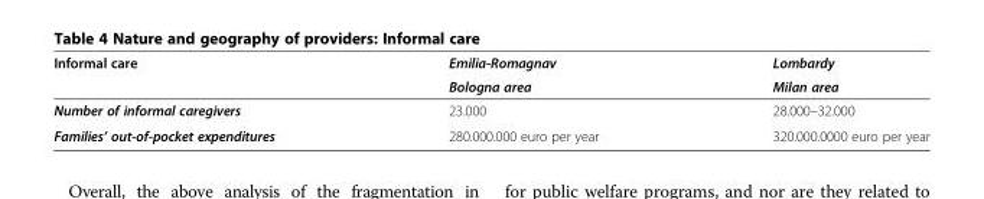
<table><thead><tr><td rowspan="2">Informal care</td><td rowspan="2">Emilia-Romagnav Bologna area</td><td rowspan="2">Lombardy Milan area</td></tr><tr></tr></thead><tbody><tr><td>Number of informal caregivers</td><td>23.000</td><td>28.000–32.000</td></tr><tr><td>Families’ out-of-pocket expenditures</td><td>280.000.000 euro per year</td><td>320.000.0000 euro per year</td></tr></tbody></table>